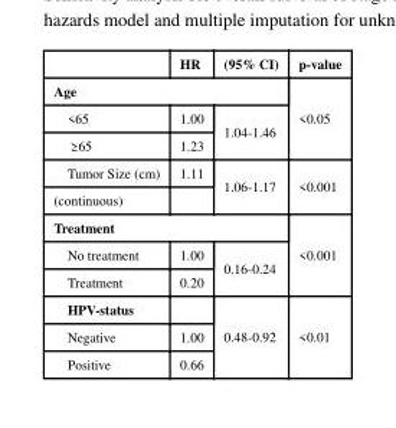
<table><thead><tr><td></td><td>HR</td><td>(95% CI)</td><td>p-value</td></tr></thead><tbody><tr><td colspan="3">Age</td><td rowspan="3">&lt;0.05</td></tr><tr><td>&lt;65</td><td>1.00</td><td rowspan="2">1.04-1.46</td></tr><tr><td>≥ 65</td><td>1.23</td></tr><tr><td>Tumor Size (cm)</td><td>1.11</td><td rowspan="2">1.06-1.17</td><td rowspan="2">&lt;0.001</td></tr><tr><td colspan="2">(continuous)</td></tr><tr><td colspan="3">Treatment</td><td rowspan="3">&lt;0.001</td></tr><tr><td>No treatment</td><td>1.00</td><td rowspan="2">0.16-0.24</td></tr><tr><td>Treatment</td><td>0.20</td></tr><tr><td colspan="2">HPV-status</td><td rowspan="3">0.48-0.92</td><td rowspan="3">&lt;0.01</td></tr><tr><td>Negative</td><td>1.00</td></tr><tr><td>Positive</td><td>0.66</td></tr></tbody></table>